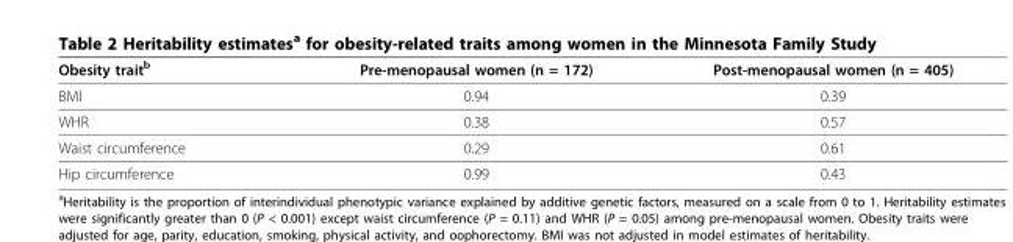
<table><thead><tr><td>Obesity trait<sup>b</sup></td><td>Pre-menopausal women (n = 172)</td><td>Post-menopausal women (n = 405)</td></tr></thead><tbody><tr><td>BMI</td><td>0.94</td><td>0.39</td></tr><tr><td>WHR</td><td>0.38</td><td>0.57</td></tr><tr><td>Waist circumference</td><td>0.29</td><td>0.61</td></tr><tr><td>Hip circumference</td><td>0.99</td><td>0.43</td></tr></tbody></table>